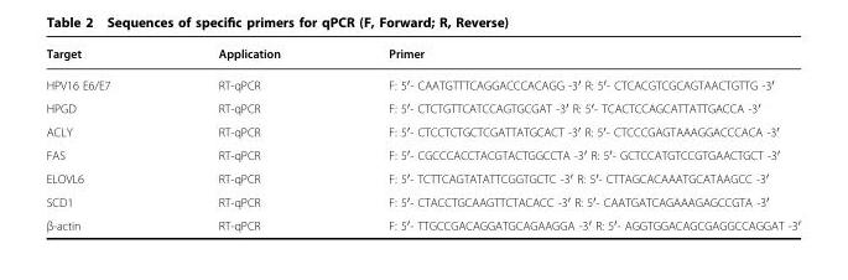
<table><thead><tr><td>Target</td><td>Application</td><td>Primer</td></tr></thead><tbody><tr><td>HPV16 E6/E7</td><td>RT-qPCR</td><td>F: 5′- CAATGTTTCAGGACCCACAGG -3′ R: 5′- CTCACGTCGCAGTAACTGTTG -3′</td></tr><tr><td>HPGD</td><td>RT-qPCR</td><td>F: 5′- CTCTGTTCATCCAGTGCGAT -3′ R: 5′- TCACTCCAGCATTATTGACCA -3′</td></tr><tr><td>ACLY</td><td>RT-qPCR</td><td>F: 5′- CTCCTCTGCTCGATTATGCACT -3′ R: 5′- CTCCCGAGTAAAGGACCCACA -3′</td></tr><tr><td>FAS</td><td>RT-qPCR</td><td>F: 5′- CGCCCACCTACGTACTGGCCTA -3′ R: 5′- GCTCCATGTCCGTGAACTGCT -3′</td></tr><tr><td>ELOVL6</td><td>RT-qPCR</td><td>F: 5′- TCTTCAGTATATTCGGTGCTC -3′ R: 5′- CTTAGCACAAATGCATAAGCC -3′</td></tr><tr><td>SCD1</td><td>RT-qPCR</td><td>F: 5′- CTACCTGCAAGTTCTACACC -3′ R: 5′- CAATGATCAGAAAGAGCCGTA -3′</td></tr><tr><td>β-actin</td><td>RT-qPCR</td><td>F: 5′- TTGCCGACAGGATGCAGAAGGA -3′ R: 5′- AGGTGGACAGCGAGGCCAGGAT -3′</td></tr></tbody></table>